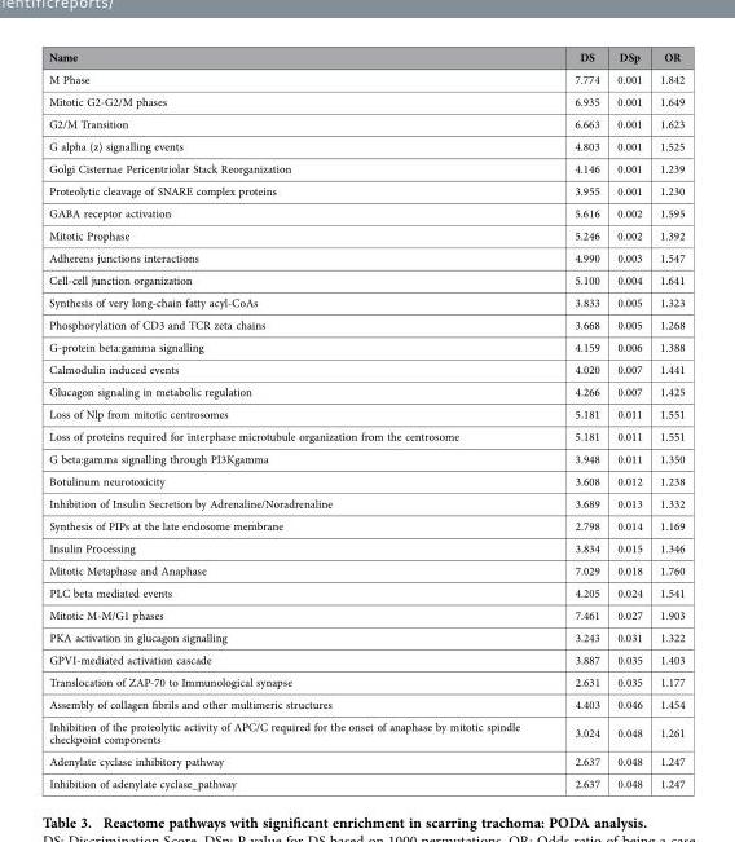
<table><thead><tr><td>Name</td><td>DS</td><td>DSp</td><td>OR</td></tr></thead><tbody><tr><td>M Phase</td><td>7.774</td><td>0.001</td><td>1.842</td></tr><tr><td>Mitotic G2-G2/M phases</td><td>6.935</td><td>0.001</td><td>1.649</td></tr><tr><td>G2/M Transition</td><td>6.663</td><td>0.001</td><td>1.623</td></tr><tr><td>G alpha (z) signalling events</td><td>4.803</td><td>0.001</td><td>1.525</td></tr><tr><td>Golgi Cisternae Pericentriolar Stack Reorganization</td><td>4.146</td><td>0.001</td><td>1.239</td></tr><tr><td>Proteolytic cleavage of SNARE complex proteins</td><td>3.955</td><td>0.001</td><td>1.230</td></tr><tr><td>GABA receptor activation</td><td>5.616</td><td>0.002</td><td>1.595</td></tr><tr><td>Mitotic Prophase</td><td>5.246</td><td>0.002</td><td>1.392</td></tr><tr><td>Adherens junctions interactions</td><td>4.990</td><td>0.003</td><td>1.547</td></tr><tr><td>Cell-cell junction organization</td><td>5.100</td><td>0.004</td><td>1.641</td></tr><tr><td>Synthesis of very long-chain fatty acyl-CoAs</td><td>3.833</td><td>0.005</td><td>1.323</td></tr><tr><td>Phosphorylation of CD3 and TCR zeta chains</td><td>3.668</td><td>0.005</td><td>1.268</td></tr><tr><td>G-protein beta:gamma signalling</td><td>4.159</td><td>0.006</td><td>1.388</td></tr><tr><td>Calmodulin induced events</td><td>4.020</td><td>0.007</td><td>1.441</td></tr><tr><td>Glucagon signaling in metabolic regulation</td><td>4.266</td><td>0.007</td><td>1.425</td></tr><tr><td>Loss of Nlp from mitotic centrosomes</td><td>5.181</td><td>0.011</td><td>1.551</td></tr><tr><td>Loss of proteins required for interphase microtubule organization from the centrosome</td><td>5.181</td><td>0.011</td><td>1.551</td></tr><tr><td>G beta:gamma signalling through PI3Kgamma</td><td>3.948</td><td>0.011</td><td>1.350</td></tr><tr><td>Botulinum neurotoxicity</td><td>3.608</td><td>0.012</td><td>1.238</td></tr><tr><td>Inhibition of Insulin Secretion by Adrenaline/Noradrenaline</td><td>3.689</td><td>0.013</td><td>1.332</td></tr><tr><td>Synthesis of PIPs at the late endosome membrane</td><td>2.798</td><td>0.014</td><td>1.169</td></tr><tr><td>Insulin Processing</td><td>3.834</td><td>0.015</td><td>1.346</td></tr><tr><td>Mitotic Metaphase and Anaphase</td><td>7.029</td><td>0.018</td><td>1.760</td></tr><tr><td>PLC beta mediated events</td><td>4.205</td><td>0.024</td><td>1.541</td></tr><tr><td>Mitotic M-M/G1 phases</td><td>7.461</td><td>0.027</td><td>1.903</td></tr><tr><td>PKA activation in glucagon signalling</td><td>3.243</td><td>0.031</td><td>1.322</td></tr><tr><td>GPVI-mediated activation cascade</td><td>3.887</td><td>0.035</td><td>1.403</td></tr><tr><td>Translocation of ZAP-70 to Immunological synapse</td><td>2.631</td><td>0.035</td><td>1.177</td></tr><tr><td>Assembly of collagen fibrils and other multimeric structures</td><td>4.403</td><td>0.046</td><td>1.454</td></tr><tr><td>Inhibition of the proteolytic activity of APC/C required for the onset of anaphase by mitotic spindle checkpoint components</td><td>3.024</td><td>0.048</td><td>1.261</td></tr><tr><td>Adenylate cyclase inhibitory pathway</td><td>2.637</td><td>0.048</td><td>1.247</td></tr><tr><td>Inhibition of adenylate cyclase_pathway</td><td>2.637</td><td>0.048</td><td>1.247</td></tr></tbody></table>